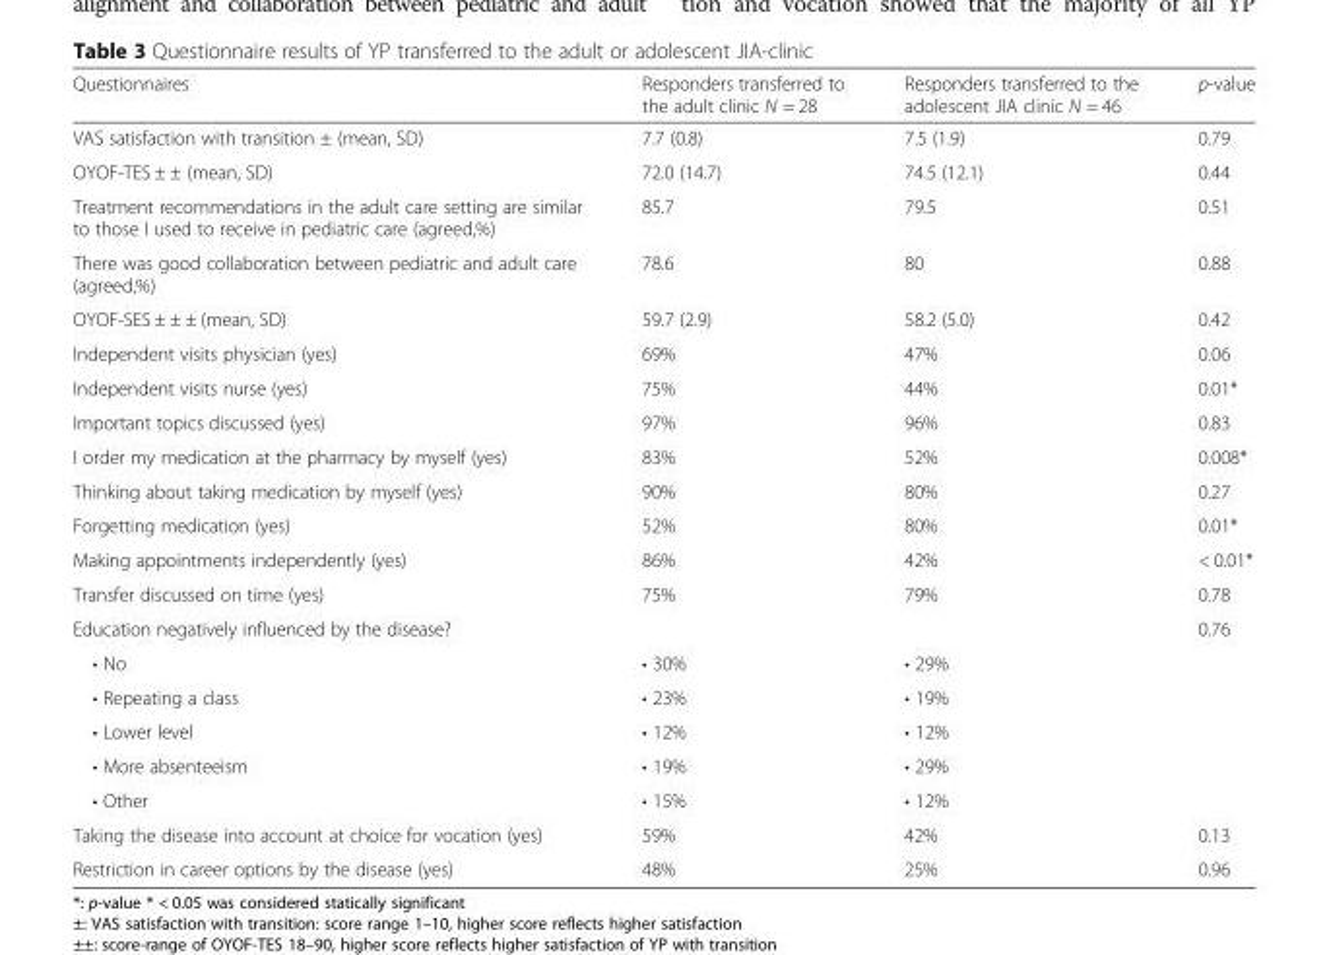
<table><thead><tr><td>Questionnaires</td><td>Responders transferred to the adult clinic N = 28</td><td>Responders transferred to the adolescent JIA clinic N = 46</td><td>p-value</td></tr></thead><tbody><tr><td>VAS satisfaction with transition ± (mean, SD)</td><td>7.7 (0.8)</td><td>7.5 (1.9)</td><td>0.79</td></tr><tr><td>OYOF-TES ± ± (mean, SD)</td><td>72.0 (14.7)</td><td>74.5 (12.1)</td><td>0.44</td></tr><tr><td>Treatment recommendations in the adult care setting are similar to those I used to receive in pediatric care (agreed,%)</td><td>85.7</td><td>79.5</td><td>0.51</td></tr><tr><td>There was good collaboration between pediatric and adult care (agreed,%)</td><td>78.6</td><td>80</td><td>0.88</td></tr><tr><td>OYOF-SES ± ± ± (mean, SD)</td><td>59.7 (2.9)</td><td>58.2 (5.0)</td><td>0.42</td></tr><tr><td>Independent visits physician (yes)</td><td>69%</td><td>47%</td><td>0.06</td></tr><tr><td>Independent visits nurse (yes)</td><td>75%</td><td>44%</td><td>0.01*</td></tr><tr><td>Important topics discussed (yes)</td><td>97%</td><td>96%</td><td>0.83</td></tr><tr><td>I order my medication at the pharmacy by myself (yes)</td><td>83%</td><td>52%</td><td>0.008*</td></tr><tr><td>Thinking about taking medication by myself (yes)</td><td>90%</td><td>80%</td><td>0.27</td></tr><tr><td>Forgetting medication (yes)</td><td>52%</td><td>80%</td><td>0.01*</td></tr><tr><td>Making appointments independently (yes)</td><td>86%</td><td>42%</td><td>&lt; 0.01*</td></tr><tr><td>Transfer discussed on time (yes)</td><td>75%</td><td>79%</td><td>0.78</td></tr><tr><td colspan="3">Education negatively influenced by the disease?</td><td rowspan="6">0.76</td></tr><tr><td>• No</td><td>• 30%</td><td>• 29%</td></tr><tr><td>• Repeating a class</td><td>• 23%</td><td>• 19%</td></tr><tr><td>• Lower level</td><td>• 12%</td><td>• 12%</td></tr><tr><td>• More absenteeism</td><td>• 19%</td><td>• 29%</td></tr><tr><td>• Other</td><td>• 15%</td><td>• 12%</td></tr><tr><td>Taking the disease into account at choice for vocation (yes)</td><td>59%</td><td>42%</td><td>0.13</td></tr><tr><td>Restriction in career options by the disease (yes)</td><td>48%</td><td>25%</td><td>0.96</td></tr></tbody></table>